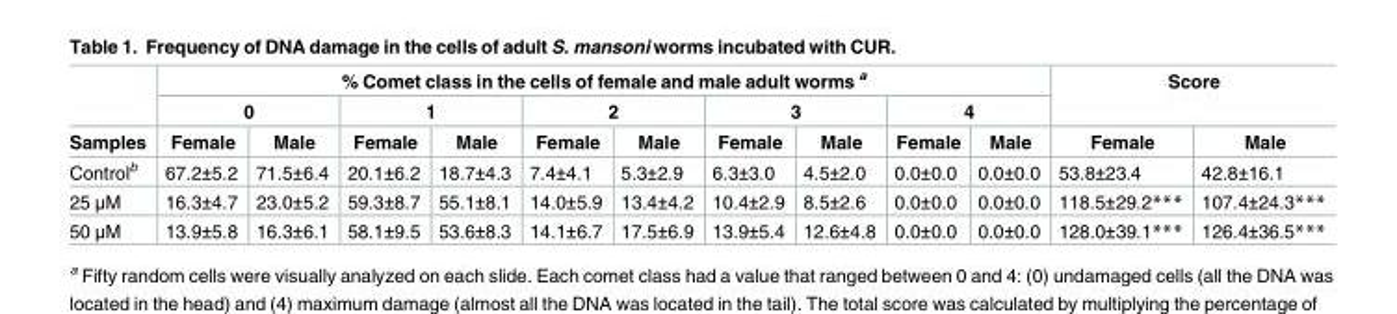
<table><thead><tr><td rowspan="3">Samples</td><td colspan="10">% Comet class in the cells of female and male adult worms <sup>a</sup></td><td rowspan="2" colspan="2">Score</td></tr><tr><td colspan="2">0</td><td colspan="2">1</td><td colspan="2">2</td><td colspan="2">3</td><td colspan="2">4</td></tr><tr><td>Female</td><td>Male</td><td>Female</td><td>Male</td><td>Female</td><td>Male</td><td>Female</td><td>Male</td><td>Female</td><td>Male</td><td>Female</td><td>Male</td></tr></thead><tbody><tr><td>Control<sup>b</sup></td><td>67.2±5.2</td><td>71.5±6.4</td><td>20.1±6.2</td><td>18.7±4.3</td><td>7.4±4.1</td><td>5.3±2.9</td><td>6.3±3.0</td><td>4.5±2.0</td><td>0.0±0.0</td><td>0.0±0.0</td><td>53.8±23.4</td><td>42.8±16.1</td></tr><tr><td>25 μM</td><td>16.3±4.7</td><td>23.0±5.2</td><td>59.3±8.7</td><td>55.1±8.1</td><td>14.0±5.9</td><td>13.4±4.2</td><td>10.4±2.9</td><td>8.5±2.6</td><td>0.0±0.0</td><td>0.0±0.0</td><td>118.5±29.2***</td><td>107.4±24.3***</td></tr><tr><td>50 μM</td><td>13.9±5.8</td><td>16.3±6.1</td><td>58.1±9.5</td><td>53.6±8.3</td><td>14.1±6.7</td><td>17.5±6.9</td><td>13.9±5.4</td><td>12.6±4.8</td><td>0.0±0.0</td><td>0.0±0.0</td><td>128.0±39.1***</td><td>126.4±36.5***</td></tr></tbody></table>